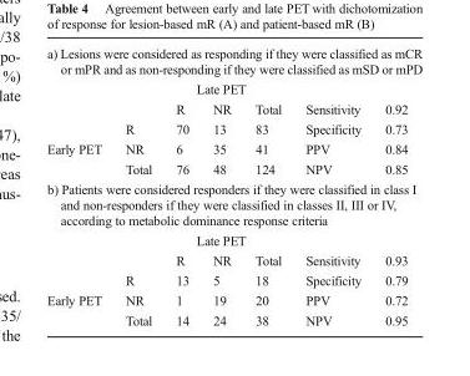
<table><tbody><tr><td colspan="7">a) Lesions were considered as responding if they were classified as mCR or mPR and as non-responding if they were classified as mSD or mPD</td></tr><tr><td colspan="7">Late PET</td></tr><tr><td></td><td></td><td>R</td><td>NR</td><td>Total</td><td>Sensitivity</td><td>0.92</td></tr><tr><td></td><td>R</td><td>70</td><td>13</td><td>83</td><td>Specificity</td><td>0.73</td></tr><tr><td rowspan="2">Early PET</td><td>NR</td><td>6</td><td>35</td><td>41</td><td>PPV</td><td>0.84</td></tr><tr><td>Total</td><td>76</td><td>48</td><td>124</td><td>NPV</td><td>0.85</td></tr><tr><td colspan="7">b) Patients were considered responders if they were classified in class I and non-responders if they were classified in classes II, III or IV, according to metabolic dominance response criteria</td></tr><tr><td colspan="7">Late PET</td></tr><tr><td></td><td></td><td>R</td><td>NR</td><td>Total</td><td>Sensitivity</td><td>0.93</td></tr><tr><td></td><td>R</td><td>13</td><td>5</td><td>18</td><td>Specificity</td><td>0.79</td></tr><tr><td rowspan="2">Early PET</td><td>NR</td><td>1</td><td>19</td><td>20</td><td>PPV</td><td>0.72</td></tr><tr><td>Total</td><td>14</td><td>24</td><td>38</td><td>NPV</td><td>0.95</td></tr></tbody></table>